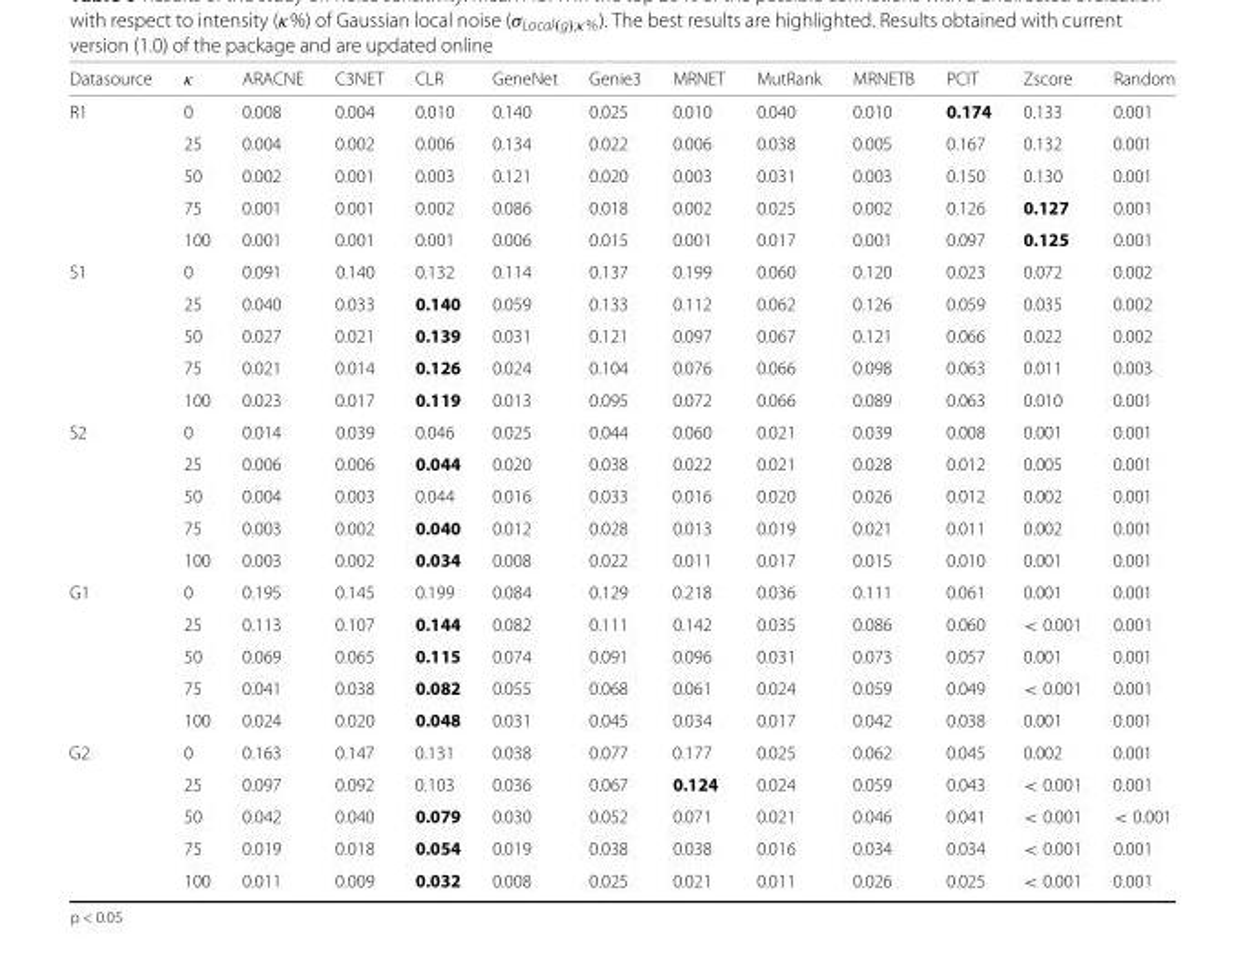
<table><thead><tr><td>Datasource</td><td>κ</td><td>ARACNE</td><td>C3NET</td><td>CLR</td><td>GeneNet</td><td>Genie3</td><td>MRNET</td><td>MutRank</td><td>MRNETB</td><td>PCIT</td><td>Zscore</td><td>Random</td></tr></thead><tbody><tr><td rowspan="5">R1</td><td>0</td><td>0.008</td><td>0.004</td><td>0.010</td><td>0.140</td><td>0.025</td><td>0.010</td><td>0.040</td><td>0.010</td><td>0.174</td><td>0.133</td><td>0.001</td></tr><tr><td>25</td><td>0.004</td><td>0.002</td><td>0.006</td><td>0.134</td><td>0.022</td><td>0.006</td><td>0.038</td><td>0.005</td><td>0.167</td><td>0.132</td><td>0.001</td></tr><tr><td>50</td><td>0.002</td><td>0.001</td><td>0.003</td><td>0.121</td><td>0.020</td><td>0.003</td><td>0.031</td><td>0.003</td><td>0.150</td><td>0.130</td><td>0.001</td></tr><tr><td>75</td><td>0.001</td><td>0.001</td><td>0.002</td><td>0.086</td><td>0.018</td><td>0.002</td><td>0.025</td><td>0.002</td><td>0.126</td><td>0.127</td><td>0.001</td></tr><tr><td>100</td><td>0.001</td><td>0.001</td><td>0.001</td><td>0.006</td><td>0.015</td><td>0.001</td><td>0.017</td><td>0.001</td><td>0.097</td><td>0.125</td><td>0.001</td></tr><tr><td rowspan="5">S1</td><td>0</td><td>0.091</td><td>0.140</td><td>0.132</td><td>0.114</td><td>0.137</td><td>0.199</td><td>0.060</td><td>0.120</td><td>0.023</td><td>0.072</td><td>0.002</td></tr><tr><td>25</td><td>0.040</td><td>0.033</td><td>0.140</td><td>0.059</td><td>0.133</td><td>0.112</td><td>0.062</td><td>0.126</td><td>0.059</td><td>0.035</td><td>0.002</td></tr><tr><td>50</td><td>0.027</td><td>0.021</td><td>0.139</td><td>0.031</td><td>0.121</td><td>0.097</td><td>0.067</td><td>0.121</td><td>0.066</td><td>0.022</td><td>0.002</td></tr><tr><td>75</td><td>0.021</td><td>0.014</td><td>0.126</td><td>0.024</td><td>0.104</td><td>0.076</td><td>0.066</td><td>0.098</td><td>0.063</td><td>0.011</td><td>0.003</td></tr><tr><td>100</td><td>0.023</td><td>0.017</td><td>0.119</td><td>0.013</td><td>0.095</td><td>0.072</td><td>0.066</td><td>0.089</td><td>0.063</td><td>0.010</td><td>0.001</td></tr><tr><td rowspan="5">S2</td><td>0</td><td>0.014</td><td>0.039</td><td>0.046</td><td>0.025</td><td>0.044</td><td>0.060</td><td>0.021</td><td>0.039</td><td>0.008</td><td>0.001</td><td>0.001</td></tr><tr><td>25</td><td>0.006</td><td>0.006</td><td>0.044</td><td>0.020</td><td>0.038</td><td>0.022</td><td>0.021</td><td>0.028</td><td>0.012</td><td>0.005</td><td>0.001</td></tr><tr><td>50</td><td>0.004</td><td>0.003</td><td>0.044</td><td>0.016</td><td>0.033</td><td>0.016</td><td>0.020</td><td>0.026</td><td>0.012</td><td>0.002</td><td>0.001</td></tr><tr><td>75</td><td>0.003</td><td>0.002</td><td>0.040</td><td>0.012</td><td>0.028</td><td>0.013</td><td>0.019</td><td>0.021</td><td>0.011</td><td>0.002</td><td>0.001</td></tr><tr><td>100</td><td>0.003</td><td>0.002</td><td>0.034</td><td>0.008</td><td>0.022</td><td>0.011</td><td>0.017</td><td>0.015</td><td>0.010</td><td>0.001</td><td>0.001</td></tr><tr><td rowspan="5">G1</td><td>0</td><td>0.195</td><td>0.145</td><td>0.199</td><td>0.084</td><td>0.129</td><td>0.218</td><td>0.036</td><td>0.111</td><td>0.061</td><td>0.001</td><td>0.001</td></tr><tr><td>25</td><td>0.113</td><td>0.107</td><td>0.144</td><td>0.082</td><td>0.111</td><td>0.142</td><td>0.035</td><td>0.086</td><td>0.060</td><td>&lt; 0.001</td><td>0.001</td></tr><tr><td>50</td><td>0.069</td><td>0.065</td><td>0.115</td><td>0.074</td><td>0.091</td><td>0.096</td><td>0.031</td><td>0.073</td><td>0.057</td><td>0.001</td><td>0.001</td></tr><tr><td>75</td><td>0.041</td><td>0.038</td><td>0.082</td><td>0.055</td><td>0.068</td><td>0.061</td><td>0.024</td><td>0.059</td><td>0.049</td><td>&lt; 0.001</td><td>0.001</td></tr><tr><td>100</td><td>0.024</td><td>0.020</td><td>0.048</td><td>0.031</td><td>0.045</td><td>0.034</td><td>0.017</td><td>0.042</td><td>0.038</td><td>0.001</td><td>0.001</td></tr><tr><td rowspan="5">G2</td><td>0</td><td>0.163</td><td>0.147</td><td>0.131</td><td>0.038</td><td>0.077</td><td>0.177</td><td>0.025</td><td>0.062</td><td>0.045</td><td>0.002</td><td>0.001</td></tr><tr><td>25</td><td>0.097</td><td>0.092</td><td>0.103</td><td>0.036</td><td>0.067</td><td>0.124</td><td>0.024</td><td>0.059</td><td>0.043</td><td>&lt; 0.001</td><td>0.001</td></tr><tr><td>50</td><td>0.042</td><td>0.040</td><td>0.079</td><td>0.030</td><td>0.052</td><td>0.071</td><td>0.021</td><td>0.046</td><td>0.041</td><td>&lt; 0.001</td><td>&lt; 0.001</td></tr><tr><td>75</td><td>0.019</td><td>0.018</td><td>0.054</td><td>0.019</td><td>0.038</td><td>0.038</td><td>0.016</td><td>0.034</td><td>0.034</td><td>&lt; 0.001</td><td>0.001</td></tr><tr><td>100</td><td>0.011</td><td>0.009</td><td>0.032</td><td>0.008</td><td>0.025</td><td>0.021</td><td>0.011</td><td>0.026</td><td>0.025</td><td>&lt; 0.001</td><td>0.001</td></tr></tbody></table>